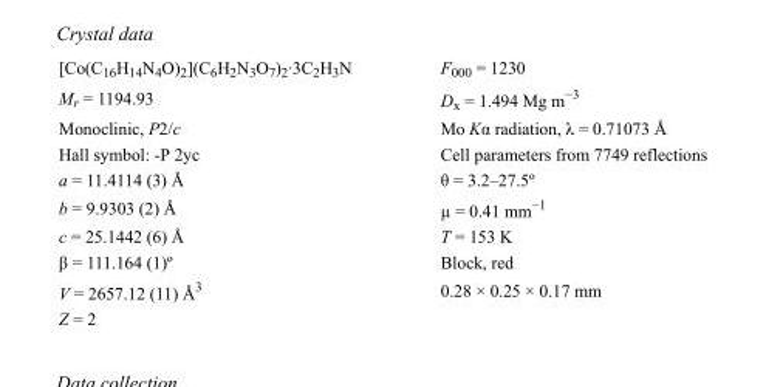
<table><tbody><tr><td>[Co(C<sub>16</sub>H<sub>14</sub>N<sub>4</sub>O)<sub>2</sub>](C<sub>6</sub>H<sub>2</sub>N<sub>3</sub>O<sub>7</sub>)<sub>2</sub>·3C<sub>2</sub>H<sub>3</sub>N</td><td>F000 = 1230</td></tr><tr><td>M<sub>r</sub> = 1194.93</td><td>D<sub>x</sub> = 1.494 Mg m<sup>−3</sup></td></tr><tr><td>Monoclinic, P2/c</td><td>Mo Kα radiation, λ = 0.71073 Å</td></tr><tr><td>Hall symbol: -P 2yc</td><td>Cell parameters from 7749 reflections</td></tr><tr><td>a = 11.4114 (3) Å</td><td>θ = 3.2–27.5º</td></tr><tr><td>b = 9.9303 (2) Å</td><td>µ = 0.41 mm<sup>−1</sup></td></tr><tr><td>c = 25.1442 (6) Å</td><td>T = 153 K</td></tr><tr><td>β = 111.164 (1)º</td><td>Block, red</td></tr><tr><td>V = 2657.12 (11) Å<sup>3</sup></td><td>0.28 × 0.25 × 0.17 mm</td></tr><tr><td>Z = 2</td><td></td></tr></tbody></table>